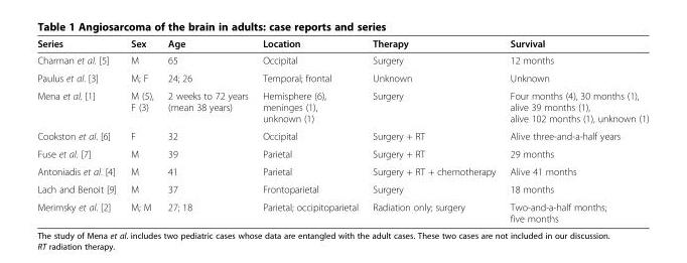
<table><thead><tr><td>Series</td><td>Sex</td><td>Age</td><td>Location</td><td>Therapy</td><td>Survival</td></tr></thead><tbody><tr><td>Charman et al. [5]</td><td>M</td><td>65</td><td>Occipital</td><td>Surgery</td><td>12 months</td></tr><tr><td>Paulus et al. [3]</td><td>M; F</td><td>24; 26</td><td>Temporal; frontal</td><td>Unknown</td><td>Unknown</td></tr><tr><td>Mena et al. [1]</td><td>M (5), F (3)</td><td>2 weeks to 72 years (mean 38 years)</td><td>Hemisphere (6), meninges (1), unknown (1)</td><td>Surgery</td><td>Four months (4), 30 months (1), alive 39 months (1), alive 102 months (1), unknown (1)</td></tr><tr><td>Cookston et al. [6]</td><td>F</td><td>32</td><td>Occipital</td><td>Surgery + RT</td><td>Alive three-and-a-half years</td></tr><tr><td>Fuse et al. [7]</td><td>M</td><td>39</td><td>Parietal</td><td>Surgery + RT</td><td>29 months</td></tr><tr><td>Antoniadis et al. [4]</td><td>M</td><td>41</td><td>Parietal</td><td>Surgery + RT + chemotherapy</td><td>Alive 41 months</td></tr><tr><td>Lach and Benoit [9]</td><td>M</td><td>37</td><td>Frontoparietal</td><td>Surgery</td><td>18 months</td></tr><tr><td>Merimsky et al. [2]</td><td>M; M</td><td>27; 18</td><td>Parietal; occipitoparietal</td><td>Radiation only; surgery</td><td>Two-and-a-half months; five months</td></tr></tbody></table>